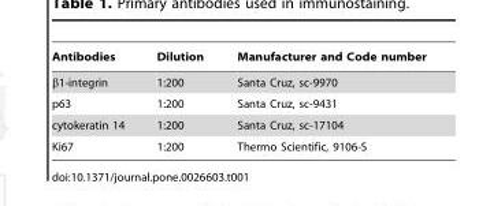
<table><thead><tr><td>Antibodies</td><td>Dilution</td><td>Manufacturer and Code number</td></tr></thead><tbody><tr><td>β1-integrin</td><td>1:200</td><td>Santa Cruz, sc-9970</td></tr><tr><td>p63</td><td>1:200</td><td>Santa Cruz, sc-9431</td></tr><tr><td>cytokeratin 14</td><td>1:200</td><td>Santa Cruz, sc-17104</td></tr><tr><td>Ki67</td><td>1:200</td><td>Thermo Scientific, 9106-S</td></tr></tbody></table>